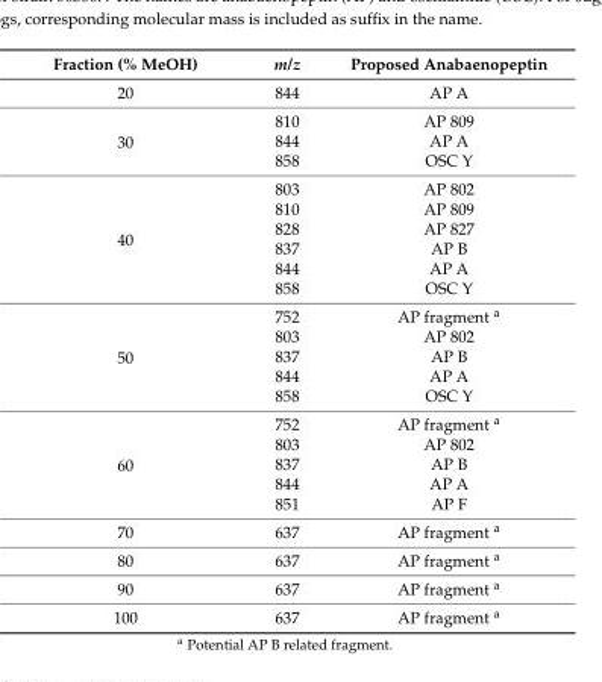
<table><thead><tr><td>Fraction (% MeOH)</td><td>m/z</td><td>Proposed Anabaenopeptin</td></tr></thead><tbody><tr><td>20</td><td>844</td><td>AP A</td></tr><tr><td rowspan="3">30</td><td>810</td><td>AP 809</td></tr><tr><td>844</td><td>AP A</td></tr><tr><td>858</td><td>OSC Y</td></tr><tr><td rowspan="6">40</td><td>803</td><td>AP 802</td></tr><tr><td>810</td><td>AP 809</td></tr><tr><td>828</td><td>AP 827</td></tr><tr><td>837</td><td>AP B</td></tr><tr><td>844</td><td>AP A</td></tr><tr><td>858</td><td>OSC Y</td></tr><tr><td rowspan="5">50</td><td>752</td><td>AP fragment <sup>a</sup></td></tr><tr><td>803</td><td>AP 802</td></tr><tr><td>837</td><td>AP B</td></tr><tr><td>844</td><td>AP A</td></tr><tr><td>858</td><td>OSC Y</td></tr><tr><td rowspan="5">60</td><td>752</td><td>AP fragment <sup>a</sup></td></tr><tr><td>803</td><td>AP 802</td></tr><tr><td>837</td><td>AP B</td></tr><tr><td>844</td><td>AP A</td></tr><tr><td>851</td><td>AP F</td></tr><tr><td>70</td><td>637</td><td>AP fragment <sup>a</sup></td></tr><tr><td>80</td><td>637</td><td>AP fragment <sup>a</sup></td></tr><tr><td>90</td><td>637</td><td>AP fragment <sup>a</sup></td></tr><tr><td>100</td><td>637</td><td>AP fragment <sup>a</sup></td></tr></tbody></table>